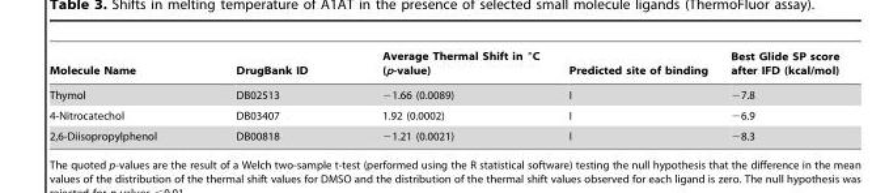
<table><thead><tr><td>Molecule Name</td><td>DrugBank ID</td><td>Average Thermal Shift in °C (p-value)</td><td>Predicted site of binding</td><td>Best Glide SP score after IFD (kcal/mol)</td></tr></thead><tbody><tr><td>Thymol</td><td>DB02513</td><td>−1.66 (0.0089)</td><td>I</td><td>−7.8</td></tr><tr><td>4-Nitrocatechol</td><td>DB03407</td><td>1.92 (0.0002)</td><td>I</td><td>−6.9</td></tr><tr><td>2,6-Diisopropylphenol</td><td>DB00818</td><td>−1.21 (0.0021)</td><td>I</td><td>−8.3</td></tr></tbody></table>